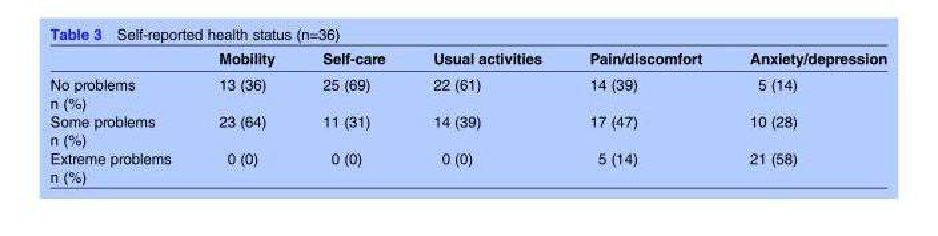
<table><thead><tr><td></td><td>Mobility</td><td>Self-care</td><td>Usual activities</td><td>Pain/discomfort</td><td>Anxiety/depression</td></tr></thead><tbody><tr><td>No problems n (%)</td><td>13 (36)</td><td>25 (69)</td><td>22 (61)</td><td>14 (39)</td><td>5 (14)</td></tr><tr><td>Some problems n (%)</td><td>23 (64)</td><td>11 (31)</td><td>14 (39)</td><td>17 (47)</td><td>10 (28)</td></tr><tr><td>Extreme problems n (%)</td><td>0 (0)</td><td>0 (0)</td><td>0 (0)</td><td>5 (14)</td><td>21 (58)</td></tr></tbody></table>